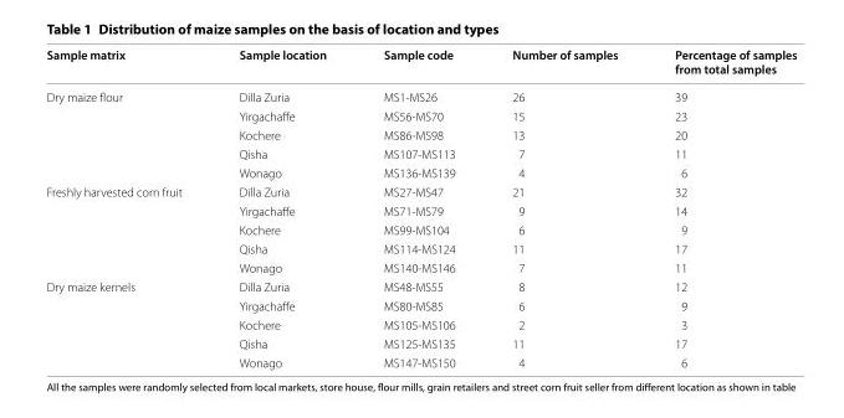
<table><thead><tr><td>Sample matrix</td><td>Sample location</td><td>Sample code</td><td>Number of samples</td><td>Percentage of samples from total samples</td></tr></thead><tbody><tr><td rowspan="5">Dry maize flour</td><td>Dilla Zuria</td><td>MS1-MS26</td><td>26</td><td>39</td></tr><tr><td>Yirgachaffe</td><td>MS56-MS70</td><td>15</td><td>23</td></tr><tr><td>Kochere</td><td>MS86-MS98</td><td>13</td><td>20</td></tr><tr><td>Qisha</td><td>MS107-MS113</td><td>7</td><td>11</td></tr><tr><td>Wonago</td><td>MS136-MS139</td><td>4</td><td>6</td></tr><tr><td rowspan="5">Freshly harvested corn fruit</td><td>Dilla Zuria</td><td>MS27-MS47</td><td>21</td><td>32</td></tr><tr><td>Yirgachaffe</td><td>MS71-MS79</td><td>9</td><td>14</td></tr><tr><td>Kochere</td><td>MS99-MS104</td><td>6</td><td>9</td></tr><tr><td>Qisha</td><td>MS114-MS124</td><td>11</td><td>17</td></tr><tr><td>Wonago</td><td>MS140-MS146</td><td>7</td><td>11</td></tr><tr><td rowspan="5">Dry maize kernels</td><td>Dilla Zuria</td><td>MS48-MS55</td><td>8</td><td>12</td></tr><tr><td>Yirgachaffe</td><td>MS80-MS85</td><td>6</td><td>9</td></tr><tr><td>Kochere</td><td>MS105-MS106</td><td>2</td><td>3</td></tr><tr><td>Qisha</td><td>MS125-MS135</td><td>11</td><td>17</td></tr><tr><td>Wonago</td><td>MS147-MS150</td><td>4</td><td>6</td></tr></tbody></table>